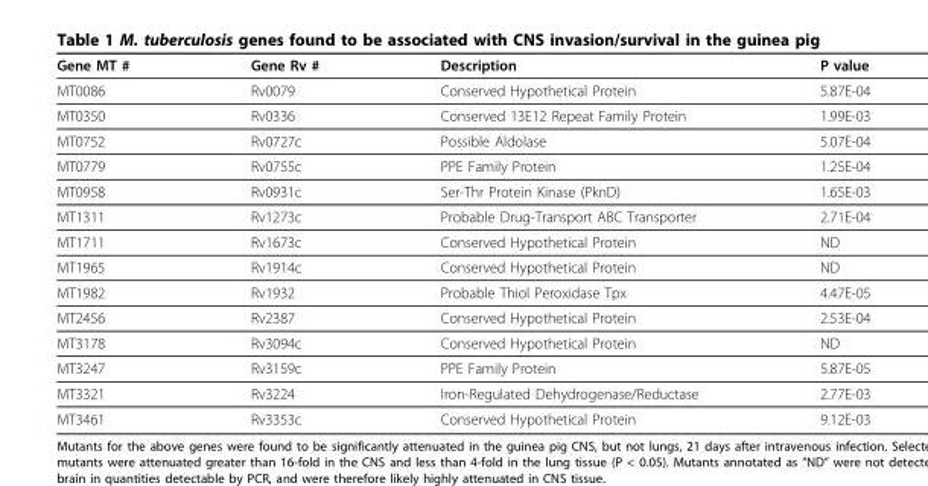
<table><thead><tr><td>Gene MT #</td><td>Gene Rv #</td><td>Description</td><td>P value</td></tr></thead><tbody><tr><td>MT0086</td><td>Rv0079</td><td>Conserved Hypothetical Protein</td><td>5.87E-04</td></tr><tr><td>MT0350</td><td>Rv0336</td><td>Conserved 13E12 Repeat Family Protein</td><td>1.99E-03</td></tr><tr><td>MT0752</td><td>Rv0727c</td><td>Possible Aldolase</td><td>5.07E-04</td></tr><tr><td>MT0779</td><td>Rv0755c</td><td>PPE Family Protein</td><td>1.25E-04</td></tr><tr><td>MT0958</td><td>Rv0931c</td><td>Ser-Thr Protein Kinase (PknD)</td><td>1.65E-03</td></tr><tr><td>MT1311</td><td>Rv1273c</td><td>Probable Drug-Transport ABC Transporter</td><td>2.71E-04</td></tr><tr><td>MT1711</td><td>Rv1673c</td><td>Conserved Hypothetical Protein</td><td>ND</td></tr><tr><td>MT1965</td><td>Rv1914c</td><td>Conserved Hypothetical Protein</td><td>ND</td></tr><tr><td>MT1982</td><td>Rv1932</td><td>Probable Thiol Peroxidase Tpx</td><td>4.47E-05</td></tr><tr><td>MT2456</td><td>Rv2387</td><td>Conserved Hypothetical Protein</td><td>2.53E-04</td></tr><tr><td>MT3178</td><td>Rv3094c</td><td>Conserved Hypothetical Protein</td><td>ND</td></tr><tr><td>MT3247</td><td>Rv3159c</td><td>PPE Family Protein</td><td>5.87E-05</td></tr><tr><td>MT3321</td><td>Rv3224</td><td>Iron-Regulated Dehydrogenase/Reductase</td><td>2.77E-03</td></tr><tr><td>MT3461</td><td>Rv3353c</td><td>Conserved Hypothetical Protein</td><td>9.12E-03</td></tr></tbody></table>